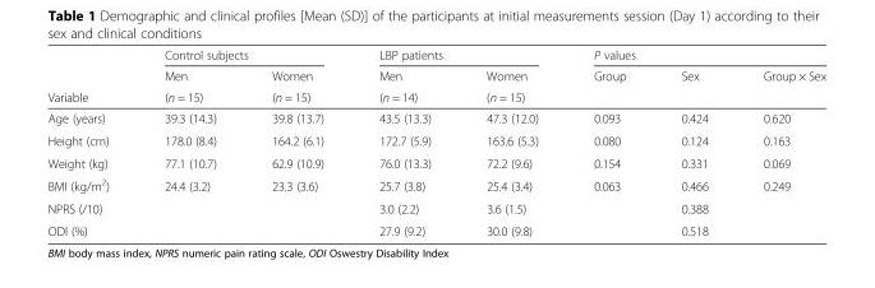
<table><thead><tr><td rowspan="3">Variable</td><td colspan="2">Control subjects</td><td colspan="2">LBP patients</td><td colspan="3">P values</td></tr><tr><td rowspan="2">Men (n = 15)</td><td rowspan="2">Women (n = 15)</td><td rowspan="2">Men (n = 14)</td><td rowspan="2">Women (n = 15)</td><td rowspan="2">Group</td><td rowspan="2">Sex</td><td rowspan="2">Group × Sex</td></tr><tr></tr></thead><tbody><tr><td>Age (years)</td><td>39.3 (14.3)</td><td>39.8 (13.7)</td><td>43.5 (13.3)</td><td>47.3 (12.0)</td><td>0.093</td><td>0.424</td><td>0.620</td></tr><tr><td>Height (cm)</td><td>178.0 (8.4)</td><td>164.2 (6.1)</td><td>172.7 (5.9)</td><td>163.6 (5.3)</td><td>0.080</td><td>0.124</td><td>0.163</td></tr><tr><td>Weight (kg)</td><td>77.1 (10.7)</td><td>62.9 (10.9)</td><td>76.0 (13.3)</td><td>72.2 (9.6)</td><td>0.154</td><td>0.331</td><td>0.069</td></tr><tr><td>BMI (kg/m<sup>2</sup>)</td><td>24.4 (3.2)</td><td>23.3 (3.6)</td><td>25.7 (3.8)</td><td>25.4 (3.4)</td><td>0.063</td><td>0.466</td><td>0.249</td></tr><tr><td>NPRS (/10)</td><td></td><td></td><td>3.0 (2.2)</td><td>3.6 (1.5)</td><td></td><td>0.388</td><td></td></tr><tr><td>ODI (%)</td><td></td><td></td><td>27.9 (9.2)</td><td>30.0 (9.8)</td><td></td><td>0.518</td><td></td></tr></tbody></table>